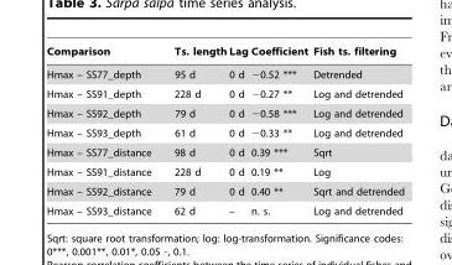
<table><thead><tr><td>Comparison</td><td>Ts. length</td><td>Lag</td><td>Coefficient</td><td>Fish ts. filtering</td></tr></thead><tbody><tr><td>Hmax – SS77_depth</td><td>95 d</td><td>0 d</td><td>−0.52 ***</td><td>Detrended</td></tr><tr><td>Hmax – SS91_depth</td><td>228 d</td><td>0 d</td><td>−0.27 **</td><td>Log and detrended</td></tr><tr><td>Hmax – SS92_depth</td><td>79 d</td><td>0 d</td><td>−0.58 ***</td><td>Log and detrended</td></tr><tr><td>Hmax – SS93_depth</td><td>61 d</td><td>0 d</td><td>−0.33 **</td><td>Log and detrended</td></tr><tr><td>Hmax – SS77_distance</td><td>98 d</td><td>0 d</td><td>0.39 ***</td><td>Sqrt</td></tr><tr><td>Hmax – SS91_distance</td><td>228 d</td><td>0 d</td><td>0.19 **</td><td>Log</td></tr><tr><td>Hmax – SS92_distance</td><td>79 d</td><td>0 d</td><td>0.40 **</td><td>Sqrt and detrended</td></tr><tr><td>Hmax – SS93_distance</td><td>62 d</td><td>–</td><td>n. s.</td><td>Log and detrended</td></tr></tbody></table>